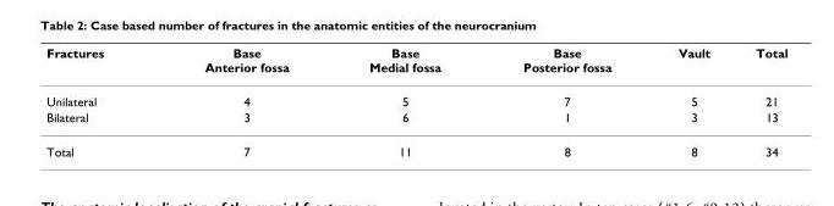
<table><thead><tr><td>Fractures</td><td>Base Anterior fossa</td><td>Base Medial fossa</td><td>Base Posterior fossa</td><td>Vault</td><td>Total</td></tr></thead><tbody><tr><td>Unilateral</td><td>4</td><td>5</td><td>7</td><td>5</td><td>21</td></tr><tr><td>Bilateral</td><td>3</td><td>6</td><td>1</td><td>3</td><td>13</td></tr><tr><td>Total</td><td>7</td><td>11</td><td>8</td><td>8</td><td>34</td></tr></tbody></table>